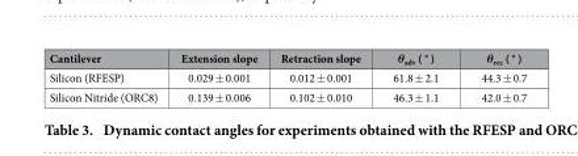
<table><thead><tr><td>Cantilever</td><td>Extension slope</td><td>Retraction slope</td><td>θ<sub>adv</sub> ( ° )</td><td>θ<sub>rec</sub> ( ° )</td></tr></thead><tbody><tr><td>Silicon (RFESP)</td><td>0.029 ± 0.001</td><td>0.012 ± 0.001</td><td>61.8 ± 2.1</td><td>44.3 ± 0.7</td></tr><tr><td>Silicon Nitride (ORC8)</td><td>0.139 ± 0.006</td><td>0.102 ± 0.010</td><td>46.3 ± 1.1</td><td>42.0 ± 0.7</td></tr></tbody></table>